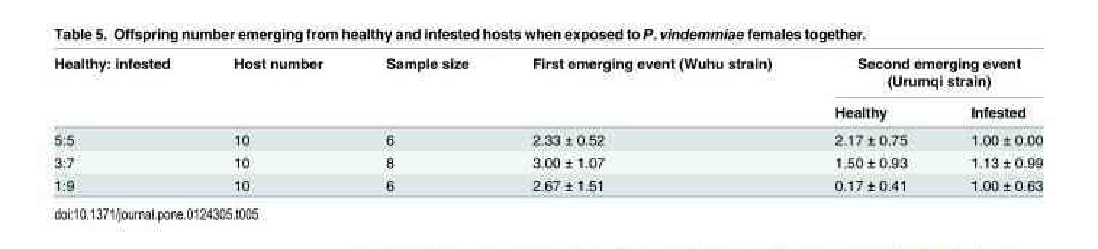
<table><thead><tr><td rowspan="2">Healthy: infested</td><td rowspan="2">Host number</td><td rowspan="2">Sample size</td><td rowspan="2">First emerging event (Wuhu strain)</td><td colspan="2">Second emerging event (Urumqi strain)</td></tr><tr><td>Healthy</td><td>Infested</td></tr></thead><tbody><tr><td>5:5</td><td>10</td><td>6</td><td>2.33 ± 0.52</td><td>2.17 ± 0.75</td><td>1.00 ± 0.00</td></tr><tr><td>3:7</td><td>10</td><td>8</td><td>3.00 ± 1.07</td><td>1.50 ± 0.93</td><td>1.13 ± 0.99</td></tr><tr><td>1:9</td><td>10</td><td>6</td><td>2.67 ± 1.51</td><td>0.17 ± 0.41</td><td>1.00 ± 0.63</td></tr></tbody></table>